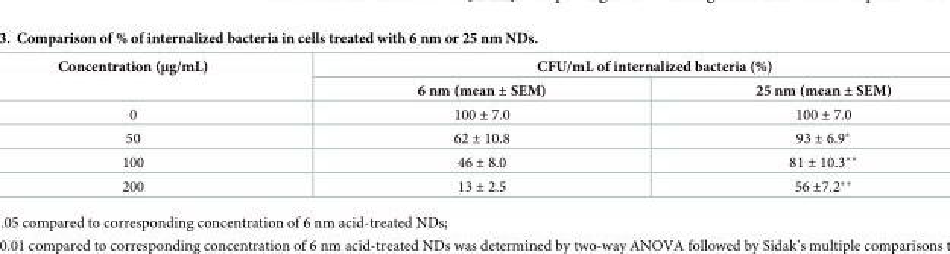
<table><thead><tr><td rowspan="2">Concentration (μg/mL)</td><td colspan="2">CFU/mL of internalized bacteria (%)</td></tr><tr><td>6 nm (mean ± SEM)</td><td>25 nm (mean ± SEM)</td></tr></thead><tbody><tr><td>0</td><td>100 ± 7.0</td><td>100 ± 7.0</td></tr><tr><td>50</td><td>62 ± 10.8</td><td>93 ± 6.9*</td></tr><tr><td>100</td><td>46 ± 8.0</td><td>81 ± 10.3**</td></tr><tr><td>200</td><td>13 ± 2.5</td><td>56 ±7.2**</td></tr></tbody></table>